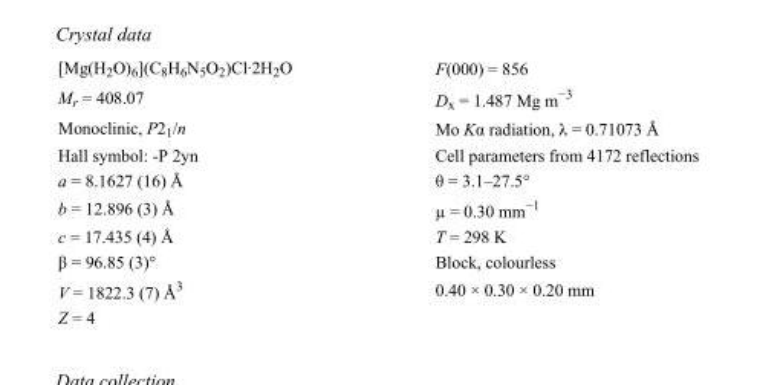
<table><tbody><tr><td>[Mg(H<sub>2</sub>O)<sub>6</sub>](C<sub>8</sub>H<sub>6</sub>N<sub>5</sub>O<sub>2</sub>)Cl·2H<sub>2</sub>O</td><td>F(000) = 856</td></tr><tr><td>M<sub>r</sub> = 408.07</td><td>D<sub>x</sub> = 1.487 Mg m<sup>−3</sup></td></tr><tr><td>Monoclinic, P2<sub>1</sub>/n</td><td>Mo Kα radiation, λ = 0.71073 Å</td></tr><tr><td>Hall symbol: -P 2yn</td><td>Cell parameters from 4172 reflections</td></tr><tr><td>a = 8.1627 (16) Å</td><td>θ = 3.1–27.5°</td></tr><tr><td>b = 12.896 (3) Å</td><td>µ = 0.30 mm<sup>−1</sup></td></tr><tr><td>c = 17.435 (4) Å</td><td>T = 298 K</td></tr><tr><td>β = 96.85 (3)°</td><td>Block, colourless</td></tr><tr><td>V = 1822.3 (7) Å<sup>3</sup></td><td>0.40 × 0.30 × 0.20 mm</td></tr><tr><td>Z = 4</td><td></td></tr></tbody></table>